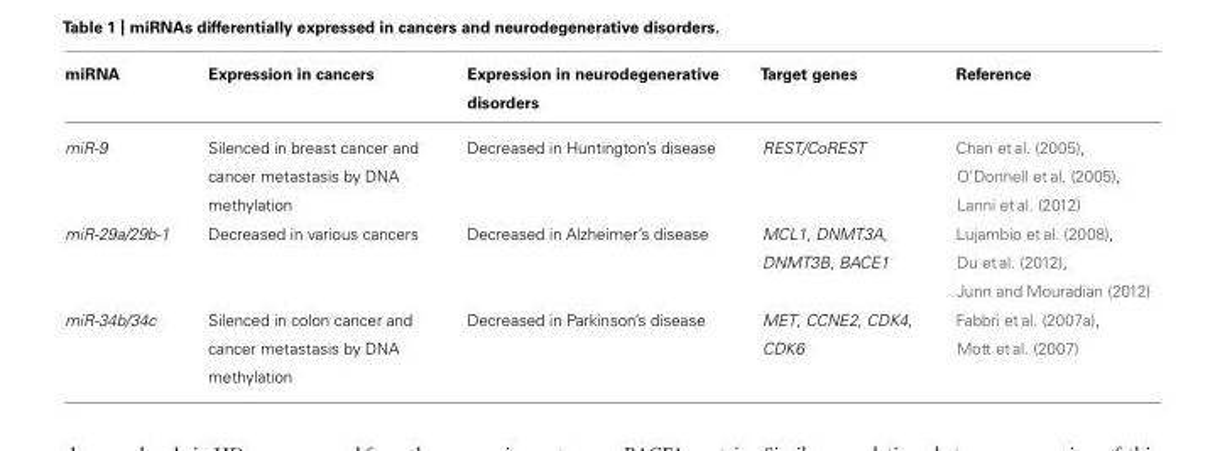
<table><thead><tr><td>miRNA</td><td>Expression in cancers</td><td>Expression in neurodegenerative disorders</td><td>Target genes</td><td>Reference</td></tr></thead><tbody><tr><td>miR-9</td><td>Silenced in breast cancer and cancer metastasis by DNA methylation</td><td>Decreased in Huntington’s disease</td><td>REST/CoREST</td><td>Chan et al. (2005), O’Donnell et al. (2005), Lanni et al. (2012)</td></tr><tr><td>miR-29a/29b-1</td><td>Decreased in various cancers</td><td>Decreased in Alzheimer’s disease</td><td>MCL1, DNMT3A, DNMT3B, BACE1</td><td>Lujambio et al. (2008), Du et al. (2012), Junn and Mouradian (2012)</td></tr><tr><td>miR-34b/34c</td><td>Silenced in colon cancer and cancer metastasis by DNA methylation</td><td>Decreased in Parkinson’s disease</td><td>MET, CCNE2, CDK4, CDK6</td><td>Fabbri et al. (2007a), Mott et al. (2007)</td></tr></tbody></table>